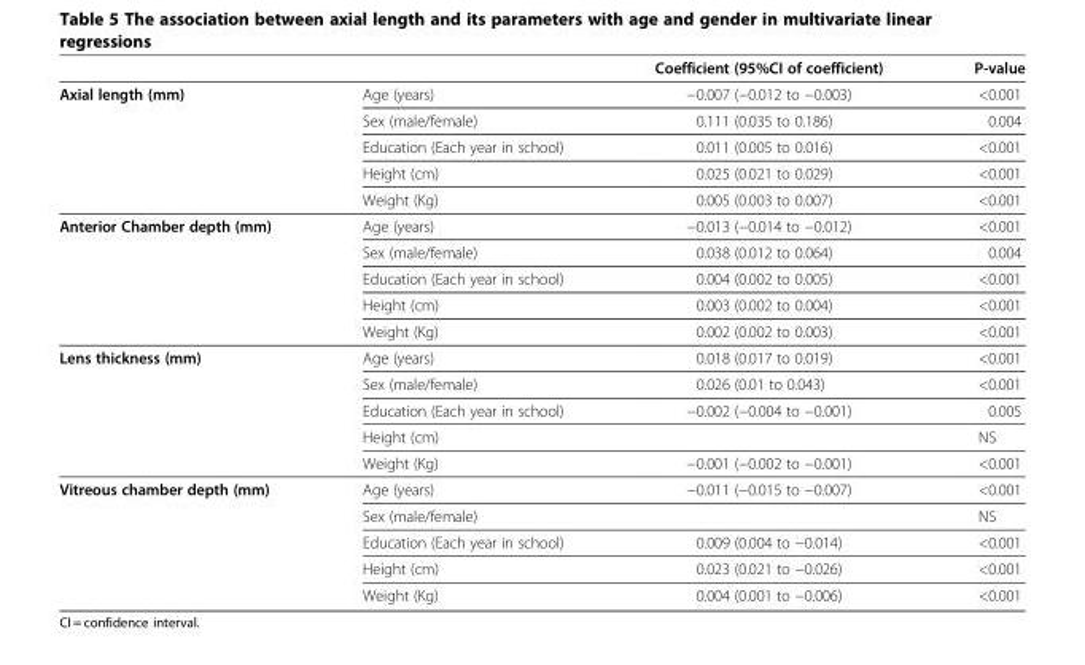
<table><thead><tr><td></td><td></td><td>Coefficient (95%CI of coefficient)</td><td>P-value</td></tr></thead><tbody><tr><td rowspan="5">Axial length (mm)</td><td>Age (years)</td><td>−0.007 (−0.012 to −0.003)</td><td>&lt;0.001</td></tr><tr><td>Sex (male/female)</td><td>0.111 (0.035 to 0.186)</td><td>0.004</td></tr><tr><td>Education (Each year in school)</td><td>0.011 (0.005 to 0.016)</td><td>&lt;0.001</td></tr><tr><td>Height (cm)</td><td>0.025 (0.021 to 0.029)</td><td>&lt;0.001</td></tr><tr><td>Weight (Kg)</td><td>0.005 (0.003 to 0.007)</td><td>&lt;0.001</td></tr><tr><td rowspan="5">Anterior Chamber depth (mm)</td><td>Age (years)</td><td>−0.013 (−0.014 to −0.012)</td><td>&lt;0.001</td></tr><tr><td>Sex (male/female)</td><td>0.038 (0.012 to 0.064)</td><td>0.004</td></tr><tr><td>Education (Each year in school)</td><td>0.004 (0.002 to 0.005)</td><td>&lt;0.001</td></tr><tr><td>Height (cm)</td><td>0.003 (0.002 to 0.004)</td><td>&lt;0.001</td></tr><tr><td>Weight (Kg)</td><td>0.002 (0.002 to 0.003)</td><td>&lt;0.001</td></tr><tr><td rowspan="5">Lens thickness (mm)</td><td>Age (years)</td><td>0.018 (0.017 to 0.019)</td><td>&lt;0.001</td></tr><tr><td>Sex (male/female)</td><td>0.026 (0.01 to 0.043)</td><td>&lt;0.001</td></tr><tr><td>Education (Each year in school)</td><td>−0.002 (−0.004 to −0.001)</td><td>0.005</td></tr><tr><td>Height (cm)</td><td></td><td>NS</td></tr><tr><td>Weight (Kg)</td><td>−0.001 (−0.002 to −0.001)</td><td>&lt;0.001</td></tr><tr><td rowspan="5">Vitreous chamber depth (mm)</td><td>Age (years)</td><td>−0.011 (−0.015 to −0.007)</td><td>&lt;0.001</td></tr><tr><td>Sex (male/female)</td><td></td><td>NS</td></tr><tr><td>Education (Each year in school)</td><td>0.009 (0.004 to −0.014)</td><td>&lt;0.001</td></tr><tr><td>Height (cm)</td><td>0.023 (0.021 to −0.026)</td><td>&lt;0.001</td></tr><tr><td>Weight (Kg)</td><td>0.004 (0.001 to −0.006)</td><td>&lt;0.001</td></tr></tbody></table>